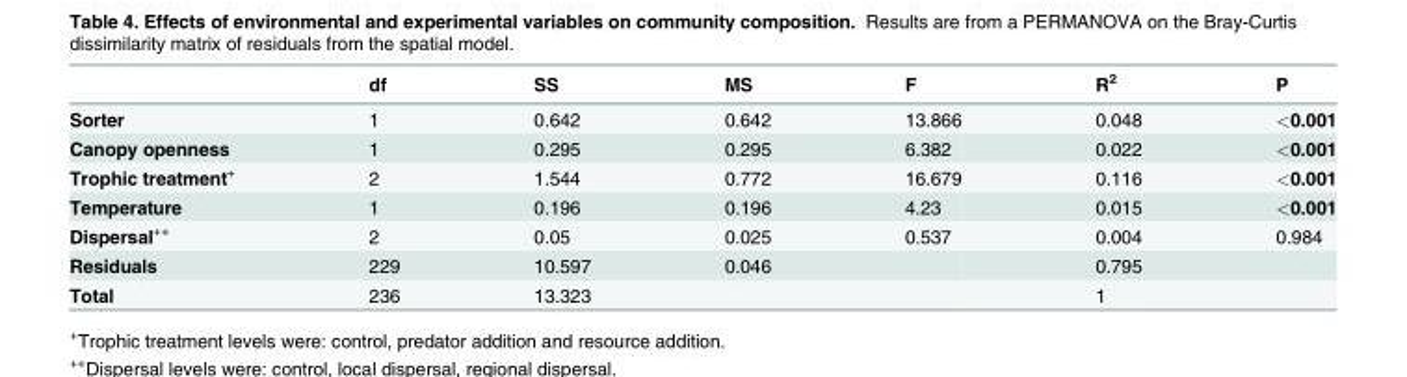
<table><thead><tr><td></td><td>df</td><td>SS</td><td>MS</td><td>F</td><td>R<sup>2</sup></td><td>P</td></tr></thead><tbody><tr><td>Sorter</td><td>1</td><td>0.642</td><td>0.642</td><td>13.866</td><td>0.048</td><td>&lt;0.001</td></tr><tr><td>Canopy openness</td><td>1</td><td>0.295</td><td>0.295</td><td>6.382</td><td>0.022</td><td>&lt;0.001</td></tr><tr><td>Trophic treatment<sup>+</sup></td><td>2</td><td>1.544</td><td>0.772</td><td>16.679</td><td>0.116</td><td>&lt;0.001</td></tr><tr><td>Temperature</td><td>1</td><td>0.196</td><td>0.196</td><td>4.23</td><td>0.015</td><td>&lt;0.001</td></tr><tr><td>Dispersal<sup>++</sup></td><td>2</td><td>0.05</td><td>0.025</td><td>0.537</td><td>0.004</td><td>0.984</td></tr><tr><td>Residuals</td><td>229</td><td>10.597</td><td>0.046</td><td></td><td>0.795</td><td></td></tr><tr><td>Total</td><td>236</td><td>13.323</td><td></td><td></td><td>1</td><td></td></tr></tbody></table>